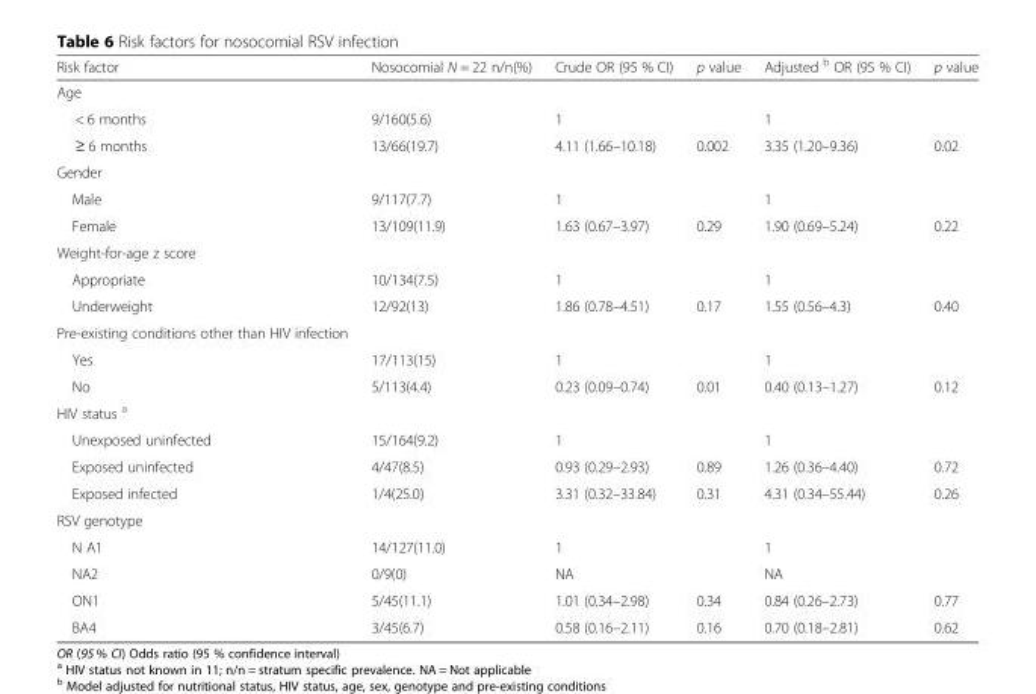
<table><thead><tr><td>Risk factor</td><td>Nosocomial N = 22 n/n(%)</td><td>Crude OR (95 % CI)</td><td>p value</td><td>Adjusted <sup>b</sup> OR (95 % CI)</td><td>p value</td></tr></thead><tbody><tr><td colspan="6">Age</td></tr><tr><td>&lt; 6 months</td><td>9/160(5.6)</td><td>1</td><td></td><td>1</td><td></td></tr><tr><td>≥ 6 months</td><td>13/66(19.7)</td><td>4.11 (1.66–10.18)</td><td>0.002</td><td>3.35 (1.20–9.36)</td><td>0.02</td></tr><tr><td colspan="6">Gender</td></tr><tr><td>Male</td><td>9/117(7.7)</td><td>1</td><td></td><td>1</td><td></td></tr><tr><td>Female</td><td>13/109(11.9)</td><td>1.63 (0.67–3.97)</td><td>0.29</td><td>1.90 (0.69–5.24)</td><td>0.22</td></tr><tr><td colspan="6">Weight-for-age z score</td></tr><tr><td>Appropriate</td><td>10/134(7.5)</td><td>1</td><td></td><td>1</td><td></td></tr><tr><td>Underweight</td><td>12/92(13)</td><td>1.86 (0.78–4.51)</td><td>0.17</td><td>1.55 (0.56–4.3)</td><td>0.40</td></tr><tr><td colspan="6">Pre-existing conditions other than HIV infection</td></tr><tr><td>Yes</td><td>17/113(15)</td><td>1</td><td></td><td>1</td><td></td></tr><tr><td>No</td><td>5/113(4.4)</td><td>0.23 (0.09–0.74)</td><td>0.01</td><td>0.40 (0.13–1.27)</td><td>0.12</td></tr><tr><td colspan="6">HIV status <sup>a</sup></td></tr><tr><td>Unexposed uninfected</td><td>15/164(9.2)</td><td>1</td><td></td><td>1</td><td></td></tr><tr><td>Exposed uninfected</td><td>4/47(8.5)</td><td>0.93 (0.29–2.93)</td><td>0.89</td><td>1.26 (0.36–4.40)</td><td>0.72</td></tr><tr><td>Exposed infected</td><td>1/4(25.0)</td><td>3.31 (0.32–33.84)</td><td>0.31</td><td>4.31 (0.34–55.44)</td><td>0.26</td></tr><tr><td colspan="6">RSV genotype</td></tr><tr><td>N A1</td><td>14/127(11.0)</td><td>1</td><td></td><td>1</td><td></td></tr><tr><td>NA2</td><td>0/9(0)</td><td>NA</td><td></td><td>NA</td><td></td></tr><tr><td>ON1</td><td>5/45(11.1)</td><td>1.01 (0.34–2.98)</td><td>0.34</td><td>0.84 (0.26–2.73)</td><td>0.77</td></tr><tr><td>BA4</td><td>3/45(6.7)</td><td>0.58 (0.16–2.11)</td><td>0.16</td><td>0.70 (0.18–2.81)</td><td>0.62</td></tr></tbody></table>